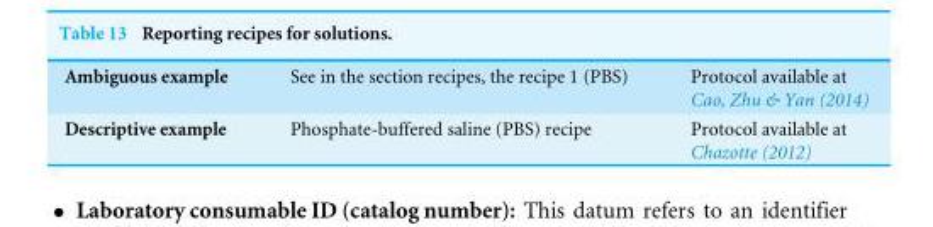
<table><tbody><tr><td>Ambiguous example</td><td>See in the section recipes, the recipe 1 (PBS)</td><td>Protocol available at Cao, Zhu &amp; Yan (2014)</td></tr><tr><td>Descriptive example</td><td>Phosphate-buffered saline (PBS) recipe</td><td>Protocol available at Chazotte (2012)</td></tr></tbody></table>